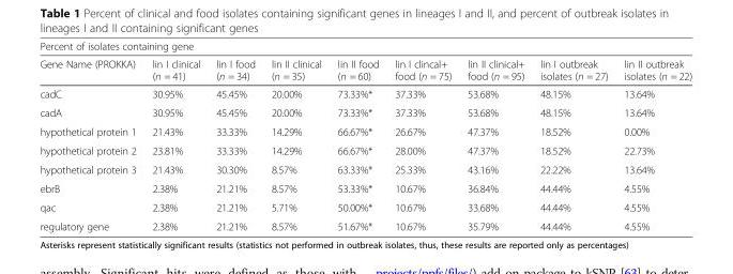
<table><thead><tr><td colspan="9">Percent of isolates containing gene</td></tr><tr><td>Gene Name (PROKKA)</td><td>lin I clinical (n = 41)</td><td>lin I food (n = 34)</td><td>lin II clinical (n = 35)</td><td>lin II food (n = 60)</td><td>lin I clincal+ food (n = 75)</td><td>lin II clinical+ food (n = 95)</td><td>lin I outbreak isolates (n = 27)</td><td>lin II outbreak isolates (n = 22)</td></tr></thead><tbody><tr><td>cadC</td><td>30.95%</td><td>45.45%</td><td>20.00%</td><td>73.33%*</td><td>37.33%</td><td>53.68%</td><td>48.15%</td><td>13.64%</td></tr><tr><td>cadA</td><td>30.95%</td><td>45.45%</td><td>20.00%</td><td>73.33%*</td><td>37.33%</td><td>53.68%</td><td>48.15%</td><td>13.64%</td></tr><tr><td>hypothetical protein 1</td><td>21.43%</td><td>33.33%</td><td>14.29%</td><td>66.67%*</td><td>26.67%</td><td>47.37%</td><td>18.52%</td><td>0.00%</td></tr><tr><td>hypothetical protein 2</td><td>23.81%</td><td>33.33%</td><td>14.29%</td><td>66.67%*</td><td>28.00%</td><td>47.37%</td><td>18.52%</td><td>22.73%</td></tr><tr><td>hypothetical protein 3</td><td>21.43%</td><td>30.30%</td><td>8.57%</td><td>63.33%*</td><td>25.33%</td><td>43.16%</td><td>22.22%</td><td>13.64%</td></tr><tr><td>ebrB</td><td>2.38%</td><td>21.21%</td><td>8.57%</td><td>53.33%*</td><td>10.67%</td><td>36.84%</td><td>44.44%</td><td>4.55%</td></tr><tr><td>qac</td><td>2.38%</td><td>21.21%</td><td>5.71%</td><td>50.00%*</td><td>10.67%</td><td>33.68%</td><td>44.44%</td><td>4.55%</td></tr><tr><td>regulatory gene</td><td>2.38%</td><td>21.21%</td><td>8.57%</td><td>51.67%*</td><td>10.67%</td><td>35.79%</td><td>44.44%</td><td>4.55%</td></tr></tbody></table>